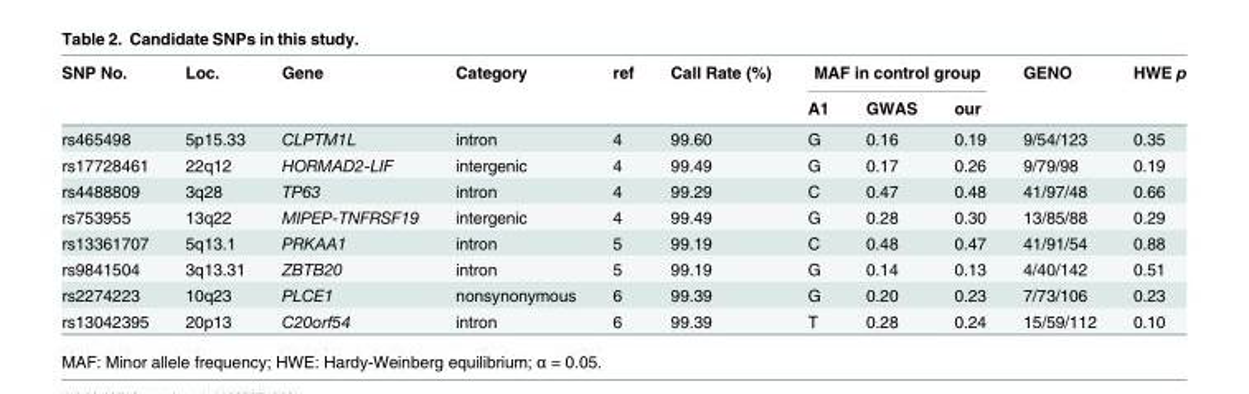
<table><thead><tr><td rowspan="2">SNP No.</td><td rowspan="2">Loc.</td><td rowspan="2">Gene</td><td rowspan="2">Category</td><td rowspan="2">ref</td><td rowspan="2">Call Rate (%)</td><td colspan="3">MAF in control group</td><td rowspan="2">GENO</td><td rowspan="2">HWE p</td></tr><tr><td>A1</td><td>GWAS</td><td>our</td></tr></thead><tbody><tr><td>rs465498</td><td>5p15.33</td><td>CLPTM1L</td><td>intron</td><td>4</td><td>99.60</td><td>G</td><td>0.16</td><td>0.19</td><td>9/54/123</td><td>0.35</td></tr><tr><td>rs17728461</td><td>22q12</td><td>HORMAD2-LIF</td><td>intergenic</td><td>4</td><td>99.49</td><td>G</td><td>0.17</td><td>0.26</td><td>9/79/98</td><td>0.19</td></tr><tr><td>rs4488809</td><td>3q28</td><td>TP63</td><td>intron</td><td>4</td><td>99.29</td><td>C</td><td>0.47</td><td>0.48</td><td>41/97/48</td><td>0.66</td></tr><tr><td>rs753955</td><td>13q22</td><td>MIPEP-TNFRSF19</td><td>intergenic</td><td>4</td><td>99.49</td><td>G</td><td>0.28</td><td>0.30</td><td>13/85/88</td><td>0.29</td></tr><tr><td>rs13361707</td><td>5q13.1</td><td>PRKAA1</td><td>intron</td><td>5</td><td>99.19</td><td>C</td><td>0.48</td><td>0.47</td><td>41/91/54</td><td>0.88</td></tr><tr><td>rs9841504</td><td>3q13.31</td><td>ZBTB20</td><td>intron</td><td>5</td><td>99.19</td><td>G</td><td>0.14</td><td>0.13</td><td>4/40/142</td><td>0.51</td></tr><tr><td>rs2274223</td><td>10q23</td><td>PLCE1</td><td>nonsynonymous</td><td>6</td><td>99.39</td><td>G</td><td>0.20</td><td>0.23</td><td>7/73/106</td><td>0.23</td></tr><tr><td>rs13042395</td><td>20p13</td><td>C20orf54</td><td>intron</td><td>6</td><td>99.39</td><td>T</td><td>0.28</td><td>0.24</td><td>15/59/112</td><td>0.10</td></tr></tbody></table>